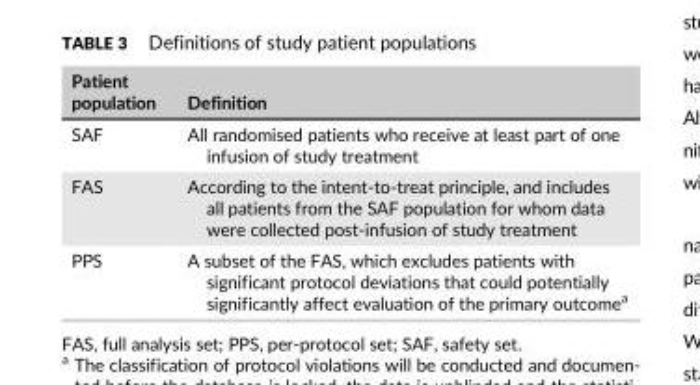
<table><thead><tr><td>Patient population</td><td>Definition</td></tr></thead><tbody><tr><td>SAF</td><td>All randomised patients who receive at least part of one infusion of study treatment</td></tr><tr><td>FAS</td><td>According to the intent-to-treat principle, and includes all patients from the SAF population for whom data were collected post-infusion of study treatment</td></tr><tr><td>PPS</td><td>A subset of the FAS, which excludes patients with significant protocol deviations that could potentially significantly affect evaluation of the primary outcome<sup>a</sup></td></tr></tbody></table>